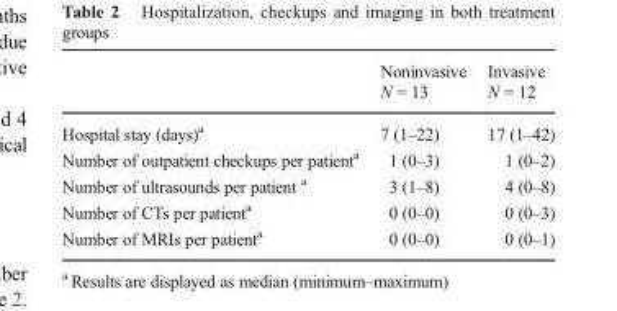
<table><thead><tr><td></td><td>Noninvasive N = 13</td><td>Invasive N = 12</td></tr></thead><tbody><tr><td>Hospital stay (days)<sup>a</sup></td><td>7 (1–22)</td><td>17 (1–42)</td></tr><tr><td>Number of outpatient checkups per patient<sup>a</sup></td><td>1 (0–3)</td><td>1 (0–2)</td></tr><tr><td>Number of ultrasounds per patient <sup>a</sup></td><td>3 (1–8)</td><td>4 (0–8)</td></tr><tr><td>Number of CTs per patient<sup>a</sup></td><td>0 (0–0)</td><td>0 (0–3)</td></tr><tr><td>Number of MRIs per patient<sup>a</sup></td><td>0 (0–0)</td><td>0 (0–1)</td></tr></tbody></table>